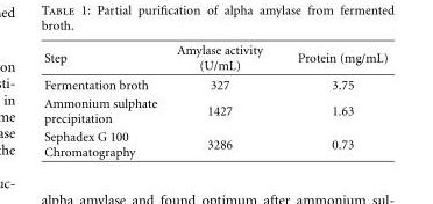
<table><thead><tr><td>Step</td><td>Amylase activity (U/mL)</td><td>Protein (mg/mL)</td></tr></thead><tbody><tr><td>Fermentation broth</td><td>327</td><td>3.75</td></tr><tr><td>Ammonium sulphate precipitation</td><td>1427</td><td>1.63</td></tr><tr><td>Sephadex G 100 Chromatography</td><td>3286</td><td>0.73</td></tr></tbody></table>